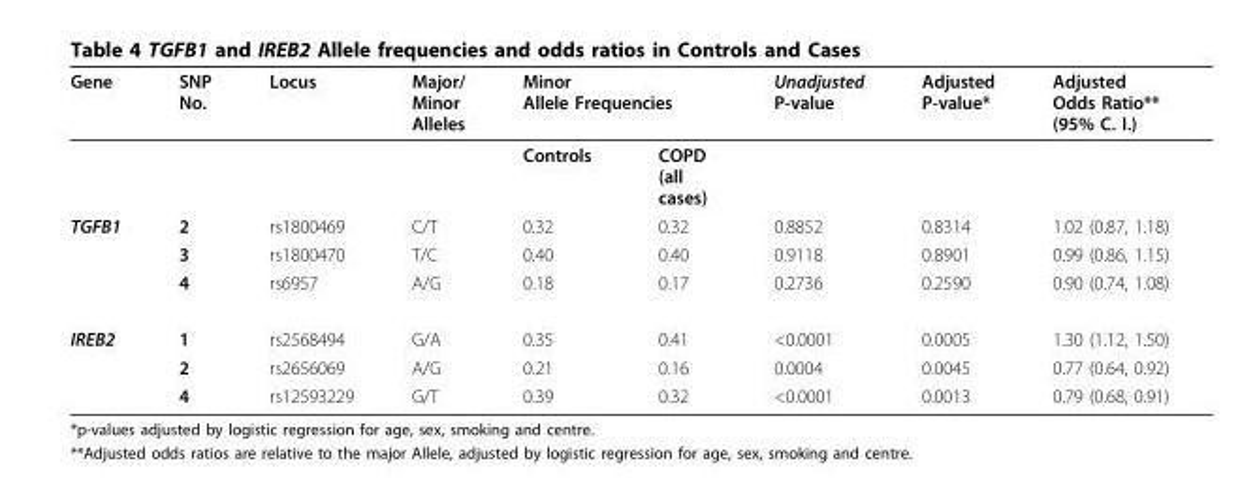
<table><thead><tr><td rowspan="2">Gene</td><td rowspan="2">SNP No.</td><td rowspan="2">Locus</td><td rowspan="2">Major/ Minor Alleles</td><td colspan="2">Minor Allele Frequencies</td><td rowspan="2">Unadjusted P-value</td><td rowspan="2">Adjusted P-value*</td><td rowspan="2">Adjusted Odds Ratio** (95% C. I.)</td></tr><tr><td>Controls</td><td>COPD (all cases)</td></tr></thead><tbody><tr><td rowspan="3">TGFB1</td><td>2</td><td>rs1800469</td><td>C/T</td><td>0.32</td><td>0.32</td><td>0.8852</td><td>0.8314</td><td>1.02 (0.87, 1.18)</td></tr><tr><td>3</td><td>rs1800470</td><td>T/C</td><td>0.40</td><td>0.40</td><td>0.9118</td><td>0.8901</td><td>0.99 (0.86, 1.15)</td></tr><tr><td>4</td><td>rs6957</td><td>A/G</td><td>0.18</td><td>0.17</td><td>0.2736</td><td>0.2590</td><td>0.90 (0.74, 1.08)</td></tr><tr><td rowspan="3">IREB2</td><td>1</td><td>rs2568494</td><td>G/A</td><td>0.35</td><td>0.41</td><td>&lt;0.0001</td><td>0.0005</td><td>1.30 (1.12, 1.50)</td></tr><tr><td>2</td><td>rs2656069</td><td>A/G</td><td>0.21</td><td>0.16</td><td>0.0004</td><td>0.0045</td><td>0.77 (0.64, 0.92)</td></tr><tr><td>4</td><td>rs12593229</td><td>G/T</td><td>0.39</td><td>0.32</td><td>&lt;0.0001</td><td>0.0013</td><td>0.79 (0.68, 0.91)</td></tr></tbody></table>